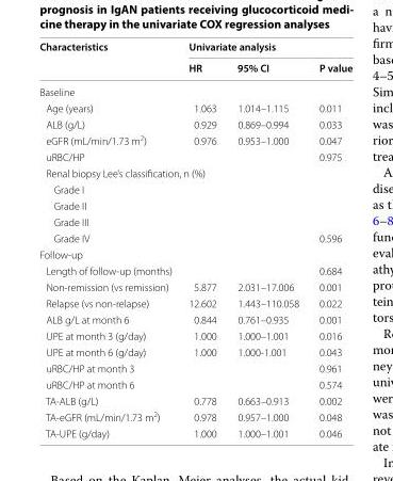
<table><thead><tr><td rowspan="2">Characteristics</td><td colspan="3">Univariate analysis</td></tr><tr><td>HR</td><td>95% CI</td><td>P value</td></tr></thead><tbody><tr><td colspan="4">Baseline</td></tr><tr><td>Age (years)</td><td>1.063</td><td>1.014–1.115</td><td>0.011</td></tr><tr><td>ALB (g/L)</td><td>0.929</td><td>0.869–0.994</td><td>0.033</td></tr><tr><td>eGFR (mL/min/1.73 m<sup>2</sup>)</td><td>0.976</td><td>0.953–1.000</td><td>0.047</td></tr><tr><td>uRBC/HP</td><td></td><td></td><td>0.975</td></tr><tr><td colspan="4">Renal biopsy Lee’s classification, n (%)</td></tr><tr><td colspan="4">Grade I</td></tr><tr><td colspan="4">Grade II</td></tr><tr><td colspan="4">Grade III</td></tr><tr><td>Grade IV</td><td></td><td></td><td>0.596</td></tr><tr><td colspan="4">Follow-up</td></tr><tr><td>Length of follow-up (months)</td><td></td><td></td><td>0.684</td></tr><tr><td>Non-remission (vs remission)</td><td>5.877</td><td>2.031–17.006</td><td>0.001</td></tr><tr><td>Relapse (vs non-relapse)</td><td>12.602</td><td>1.443–110.058</td><td>0.022</td></tr><tr><td>ALB g/L at month 6</td><td>0.844</td><td>0.761–0.935</td><td>0.001</td></tr><tr><td>UPE at month 3 (g/day)</td><td>1.000</td><td>1.000–1.001</td><td>0.016</td></tr><tr><td>UPE at month 6 (g/day)</td><td>1.000</td><td>1.000-1.001</td><td>0.043</td></tr><tr><td>uRBC/HP at month 3</td><td></td><td></td><td>0.961</td></tr><tr><td>uRBC/HP at month 6</td><td></td><td></td><td>0.574</td></tr><tr><td>TA-ALB (g/L)</td><td>0.778</td><td>0.663–0.913</td><td>0.002</td></tr><tr><td>TA-eGFR (mL/min/1.73 m<sup>2</sup>)</td><td>0.978</td><td>0.957–1.000</td><td>0.048</td></tr><tr><td>TA-UPE (g/day)</td><td>1.000</td><td>1.000–1.001</td><td>0.046</td></tr></tbody></table>